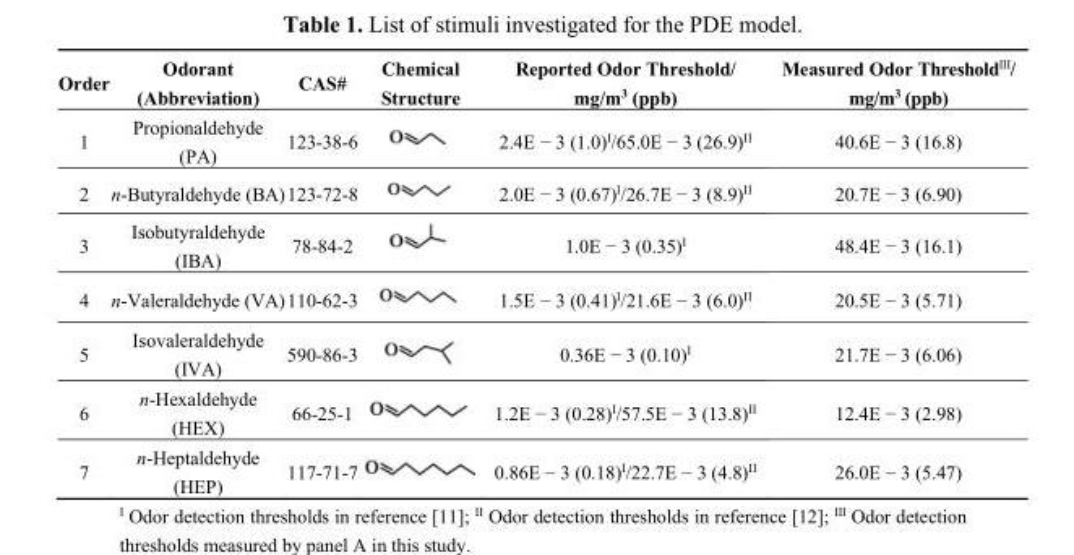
<table><thead><tr><td>Order</td><td>Odorant (Abbreviation)</td><td>CAS#</td><td>Chemical Structure</td><td>Reported Odor Threshold/ mg/m<sup>3</sup> (ppb)</td><td>Measured Odor Threshold<sup>III</sup>/ mg/m<sup>3</sup> (ppb)</td></tr></thead><tbody><tr><td>1</td><td>Propionaldehyde (PA)</td><td>123-38-6</td><td></td><td>2.4E − 3 (1.0)<sup>I</sup>/65.0E − 3 (26.9)<sup>II</sup></td><td>40.6E − 3 (16.8)</td></tr><tr><td>2</td><td>n-Butyraldehyde (BA)</td><td>123-72-8</td><td></td><td>2.0E − 3 (0.67)<sup>I</sup>/26.7E − 3 (8.9)<sup>II</sup></td><td>20.7E − 3 (6.90)</td></tr><tr><td>3</td><td>Isobutyraldehyde (IBA)</td><td>78-84-2</td><td></td><td>1.0E − 3 (0.35)<sup>I</sup></td><td>48.4E − 3 (16.1)</td></tr><tr><td>4</td><td>n-Valeraldehyde (VA)</td><td>110-62-3</td><td></td><td>1.5E − 3 (0.41)<sup>I</sup>/21.6E − 3 (6.0)<sup>II</sup></td><td>20.5E − 3 (5.71)</td></tr><tr><td>5</td><td>Isovaleraldehyde (IVA)</td><td>590-86-3</td><td></td><td>0.36E − 3 (0.10)<sup>I</sup></td><td>21.7E − 3 (6.06)</td></tr><tr><td>6</td><td>n-Hexaldehyde (HEX)</td><td>66-25-1</td><td></td><td>1.2E − 3 (0.28)<sup>I</sup>/57.5E − 3 (13.8)<sup>II</sup></td><td>12.4E − 3 (2.98)</td></tr><tr><td>7</td><td>n-Heptaldehyde (HEP)</td><td>117-71-7</td><td></td><td>0.86E − 3 (0.18)<sup>I</sup>/22.7E − 3 (4.8)<sup>II</sup></td><td>26.0E − 3 (5.47)</td></tr></tbody></table>